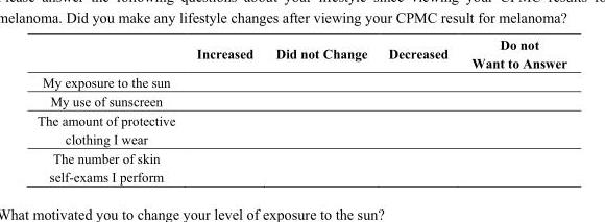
<table><thead><tr><td></td><td>Increased</td><td>Did not Change</td><td>Decreased</td><td>Do not Want to Answer</td></tr></thead><tbody><tr><td colspan="5">My exposure to the sun</td></tr><tr><td colspan="5">My use of sunscreen</td></tr><tr><td colspan="5">The amount of protective clothing I wear</td></tr><tr><td>The number of skin self-exams I perform</td><td></td><td></td><td></td><td></td></tr></tbody></table>